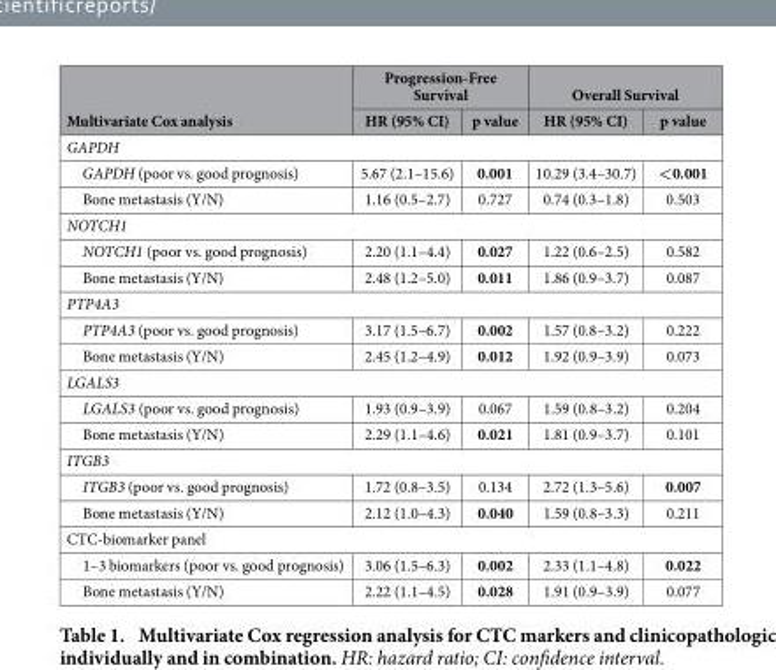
<table><thead><tr><td rowspan="2">Multivariate Cox analysis</td><td colspan="2">Progression-Free Survival</td><td colspan="2">Overall Survival</td></tr><tr><td>HR (95% CI)</td><td>p value</td><td>HR (95% CI)</td><td>p value</td></tr></thead><tbody><tr><td colspan="5">GAPDH</td></tr><tr><td>GAPDH (poor vs. good prognosis)</td><td>5.67 (2.1–15.6)</td><td>0.001</td><td>10.29 (3.4–30.7)</td><td>&lt;0.001</td></tr><tr><td>Bone metastasis (Y/N)</td><td>1.16 (0.5–2.7)</td><td>0.727</td><td>0.74 (0.3–1.8)</td><td>0.503</td></tr><tr><td colspan="5">NOTCH1</td></tr><tr><td>NOTCH1 (poor vs. good prognosis)</td><td>2.20 (1.1–4.4)</td><td>0.027</td><td>1.22 (0.6–2.5)</td><td>0.582</td></tr><tr><td>Bone metastasis (Y/N)</td><td>2.48 (1.2–5.0)</td><td>0.011</td><td>1.86 (0.9–3.7)</td><td>0.087</td></tr><tr><td colspan="5">PTP4A3</td></tr><tr><td>PTP4A3 (poor vs. good prognosis)</td><td>3.17 (1.5–6.7)</td><td>0.002</td><td>1.57 (0.8–3.2)</td><td>0.222</td></tr><tr><td>Bone metastasis (Y/N)</td><td>2.45 (1.2–4.9)</td><td>0.012</td><td>1.92 (0.9–3.9)</td><td>0.073</td></tr><tr><td colspan="5">LGALS3</td></tr><tr><td>LGALS3 (poor vs. good prognosis)</td><td>1.93 (0.9–3.9)</td><td>0.067</td><td>1.59 (0.8–3.2)</td><td>0.204</td></tr><tr><td>Bone metastasis (Y/N)</td><td>2.29 (1.1–4.6)</td><td>0.021</td><td>1.81 (0.9–3.7)</td><td>0.101</td></tr><tr><td colspan="5">ITGB3</td></tr><tr><td>ITGB3 (poor vs. good prognosis)</td><td>1.72 (0.8–3.5)</td><td>0.134</td><td>2.72 (1.3–5.6)</td><td>0.007</td></tr><tr><td>Bone metastasis (Y/N)</td><td>2.12 (1.0–4.3)</td><td>0.040</td><td>1.59 (0.8–3.3)</td><td>0.211</td></tr><tr><td colspan="5">CTC-biomarker panel</td></tr><tr><td>1–3 biomarkers (poor vs. good prognosis)</td><td>3.06 (1.5–6.3)</td><td>0.002</td><td>2.33 (1.1–4.8)</td><td>0.022</td></tr><tr><td>Bone metastasis (Y/N)</td><td>2.22 (1.1–4.5)</td><td>0.028</td><td>1.91 (0.9–3.9)</td><td>0.077</td></tr></tbody></table>